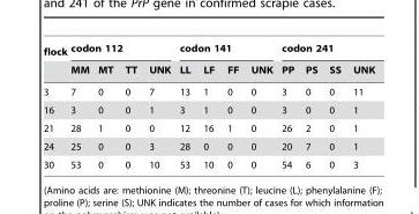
<table><thead><tr><td rowspan="2">flock</td><td colspan="4">codon 112</td><td colspan="4">codon 141</td><td colspan="4">codon 241</td></tr><tr><td>MM</td><td>MT</td><td>TT</td><td>UNK</td><td>LL</td><td>LF</td><td>FF</td><td>UNK</td><td>PP</td><td>PS</td><td>SS</td><td>UNK</td></tr></thead><tbody><tr><td>3</td><td>7</td><td>0</td><td>0</td><td>7</td><td>13</td><td>1</td><td>0</td><td>0</td><td>3</td><td>0</td><td>0</td><td>11</td></tr><tr><td>16</td><td>3</td><td>0</td><td>0</td><td>1</td><td>3</td><td>1</td><td>0</td><td>0</td><td>3</td><td>0</td><td>0</td><td>1</td></tr><tr><td>21</td><td>28</td><td>1</td><td>0</td><td>0</td><td>12</td><td>16</td><td>1</td><td>0</td><td>26</td><td>2</td><td>0</td><td>1</td></tr><tr><td>24</td><td>25</td><td>0</td><td>0</td><td>3</td><td>28</td><td>0</td><td>0</td><td>0</td><td>20</td><td>7</td><td>0</td><td>1</td></tr><tr><td>30</td><td>53</td><td>0</td><td>0</td><td>10</td><td>53</td><td>10</td><td>0</td><td>0</td><td>54</td><td>6</td><td>0</td><td>3</td></tr></tbody></table>